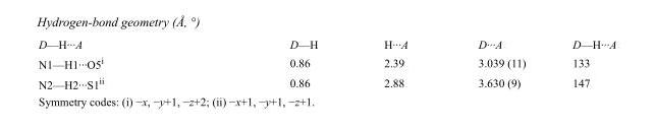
<table><tbody><tr><td>D—H···A</td><td>D—H</td><td>H···A</td><td>D···A</td><td>D—H···A</td></tr><tr><td>N1—H1···O5<sup>i</sup></td><td>0.86</td><td>2.39</td><td>3.039 (11)</td><td>133</td></tr><tr><td>N2—H2···S1<sup>ii</sup></td><td>0.86</td><td>2.88</td><td>3.630 (9)</td><td>147</td></tr></tbody></table>